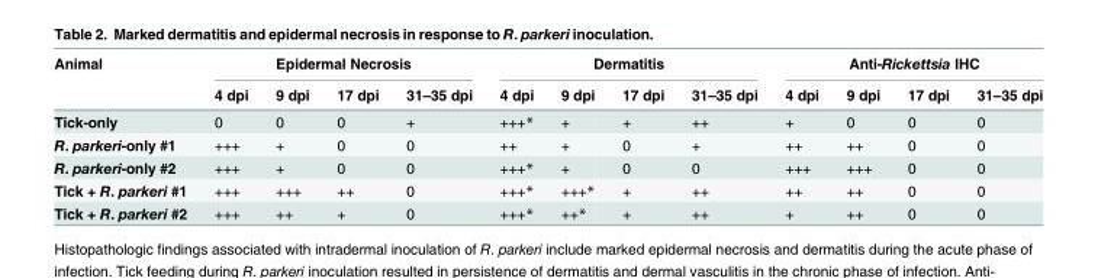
<table><thead><tr><td rowspan="2">Animal</td><td colspan="4">Epidermal Necrosis</td><td colspan="4">Dermatitis</td><td colspan="4">Anti-Rickettsia IHC</td></tr><tr><td>4 dpi</td><td>9 dpi</td><td>17 dpi</td><td>31–35 dpi</td><td>4 dpi</td><td>9 dpi</td><td>17 dpi</td><td>31–35 dpi</td><td>4 dpi</td><td>9 dpi</td><td>17 dpi</td><td>31–35 dpi</td></tr></thead><tbody><tr><td>Tick-only</td><td>0</td><td>0</td><td>0</td><td>+</td><td>+++*</td><td>+</td><td>+</td><td>++</td><td>+</td><td>0</td><td>0</td><td>0</td></tr><tr><td>R. parkeri-only #1</td><td>+++</td><td>+</td><td>0</td><td>0</td><td>++</td><td>+</td><td>0</td><td>+</td><td>++</td><td>++</td><td>0</td><td>0</td></tr><tr><td>R. parkeri-only #2</td><td>+++</td><td>+</td><td>0</td><td>0</td><td>+++*</td><td>+</td><td>0</td><td>0</td><td>+++</td><td>+++</td><td>0</td><td>0</td></tr><tr><td>Tick + R. parkeri #1</td><td>+++</td><td>+++</td><td>++</td><td>0</td><td>+++*</td><td>+++*</td><td>+</td><td>++</td><td>++</td><td>++</td><td>0</td><td>0</td></tr><tr><td>Tick + R. parkeri #2</td><td>+++</td><td>++</td><td>+</td><td>0</td><td>+++*</td><td>++*</td><td>+</td><td>++</td><td>+</td><td>++</td><td>0</td><td>0</td></tr></tbody></table>